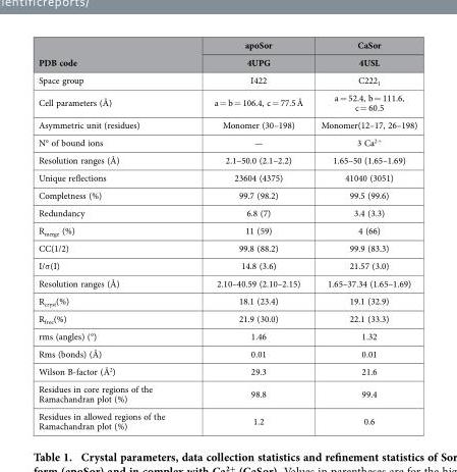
<table><thead><tr><td rowspan="2">PDB code</td><td rowspan="2">apoSor 4UPG</td><td rowspan="2">CaSor 4USL</td></tr><tr></tr></thead><tbody><tr><td>Space group</td><td>I422</td><td>C222<sub>1</sub></td></tr><tr><td>Cell parameters (Å)</td><td>a = b = 106.4, c = 77.5 Å</td><td>a = 52.4, b = 111.6, c = 60.5</td></tr><tr><td>Asymmetric unit (residues)</td><td>Monomer (30–198)</td><td>Monomer(12–17, 26–198)</td></tr><tr><td>N° of bound ions</td><td>—</td><td>3 Ca<sup>2+</sup></td></tr><tr><td>Resolution ranges (Å)</td><td>2.1–50.0 (2.1–2.2)</td><td>1.65–50 (1.65–1.69)</td></tr><tr><td>Unique reflections</td><td>23604 (4375)</td><td>41040 (3051)</td></tr><tr><td>Completness (%)</td><td>99.7 (98.2)</td><td>99.5 (99.6)</td></tr><tr><td>Redundancy</td><td>6.8 (7)</td><td>3.4 (3.3)</td></tr><tr><td>R<sub>merge</sub> (%)</td><td>11 (59)</td><td>4 (66)</td></tr><tr><td>CC(1/2)</td><td>99.8 (88.2)</td><td>99.9 (83.3)</td></tr><tr><td>I/σ (I)</td><td>14.8 (3.6)</td><td>21.57 (3.0)</td></tr><tr><td>Resolution ranges (Å)</td><td>2.10–40.59 (2.10–2.15)</td><td>1.65–37.34 (1.65–1.69)</td></tr><tr><td>R<sub>cryst</sub>(%)</td><td>18.1 (23.4)</td><td>19.1 (32.9)</td></tr><tr><td>R<sub>free</sub>(%)</td><td>21.9 (30.0)</td><td>22.1 (33.3)</td></tr><tr><td>rms (angles) (°)</td><td>1.46</td><td>1.32</td></tr><tr><td>Rms (bonds) (Å)</td><td>0.01</td><td>0.01</td></tr><tr><td>Wilson B-factor (Å<sup>2</sup>)</td><td>29.3</td><td>21.6</td></tr><tr><td>Residues in core regions of the Ramachandran plot (%)</td><td>98.8</td><td>99.4</td></tr><tr><td>Residues in allowed regions of the Ramachandran plot (%)</td><td>1.2</td><td>0.6</td></tr></tbody></table>